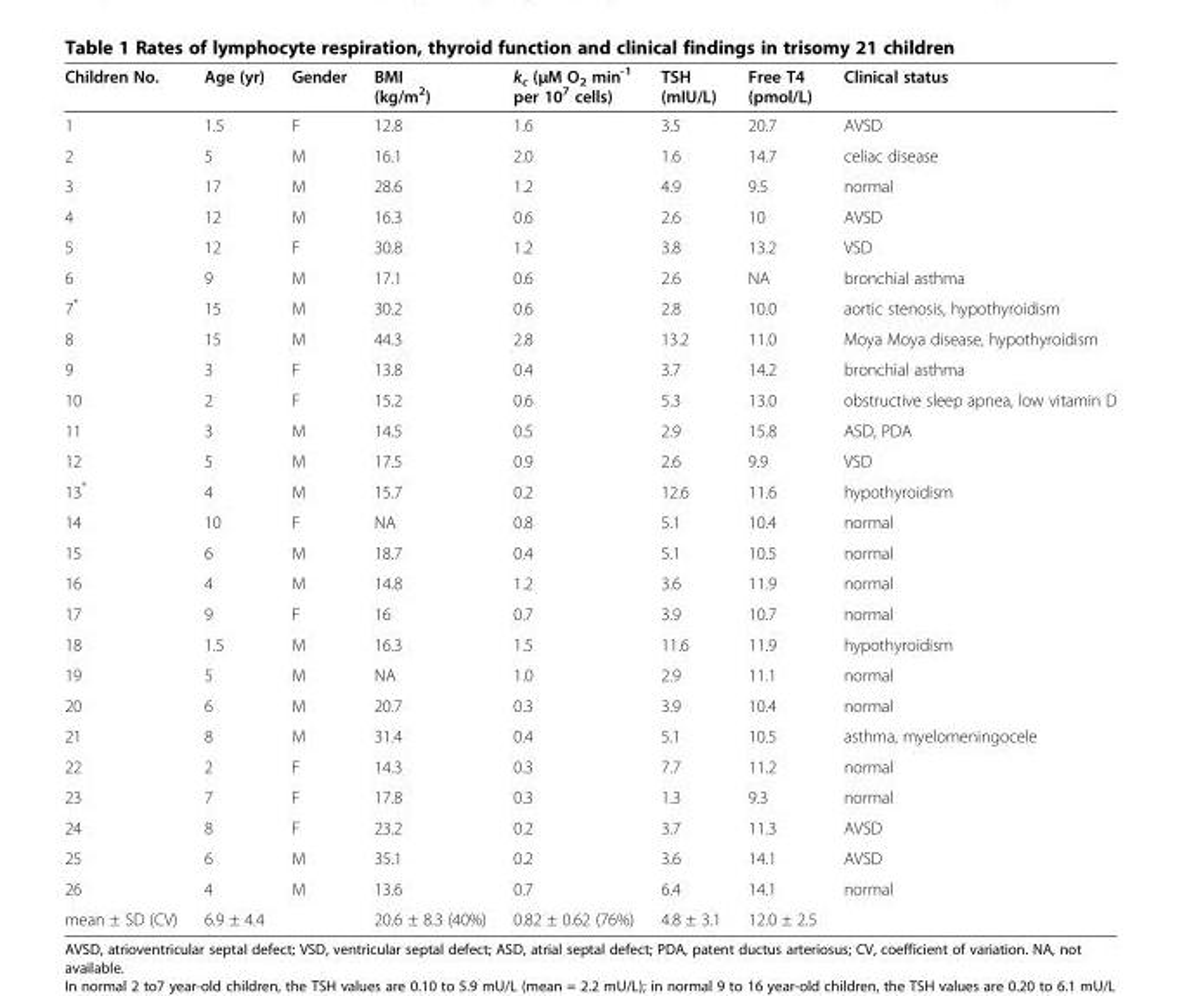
<table><thead><tr><td>Children No.</td><td>Age (yr)</td><td>Gender</td><td>BMI (kg/m<sup>2</sup>)</td><td>k<sub>c</sub> (μM O<sub>2</sub> min<sup>-1</sup> per 10<sup>7</sup> cells)</td><td>TSH (mIU/L)</td><td>Free T4 (pmol/L)</td><td>Clinical status</td></tr></thead><tbody><tr><td>1</td><td>1.5</td><td>F</td><td>12.8</td><td>1.6</td><td>3.5</td><td>20.7</td><td>AVSD</td></tr><tr><td>2</td><td>5</td><td>M</td><td>16.1</td><td>2.0</td><td>1.6</td><td>14.7</td><td>celiac disease</td></tr><tr><td>3</td><td>17</td><td>M</td><td>28.6</td><td>1.2</td><td>4.9</td><td>9.5</td><td>normal</td></tr><tr><td>4</td><td>12</td><td>M</td><td>16.3</td><td>0.6</td><td>2.6</td><td>10</td><td>AVSD</td></tr><tr><td>5</td><td>12</td><td>F</td><td>30.8</td><td>1.2</td><td>3.8</td><td>13.2</td><td>VSD</td></tr><tr><td>6</td><td>9</td><td>M</td><td>17.1</td><td>0.6</td><td>2.6</td><td>NA</td><td>bronchial asthma</td></tr><tr><td>7*</td><td>15</td><td>M</td><td>30.2</td><td>0.6</td><td>2.8</td><td>10.0</td><td>aortic stenosis, hypothyroidism</td></tr><tr><td>8</td><td>15</td><td>M</td><td>44.3</td><td>2.8</td><td>13.2</td><td>11.0</td><td>Moya Moya disease, hypothyroidism</td></tr><tr><td>9</td><td>3</td><td>F</td><td>13.8</td><td>0.4</td><td>3.7</td><td>14.2</td><td>bronchial asthma</td></tr><tr><td>10</td><td>2</td><td>F</td><td>15.2</td><td>0.6</td><td>5.3</td><td>13.0</td><td>obstructive sleep apnea, low vitamin D</td></tr><tr><td>11</td><td>3</td><td>M</td><td>14.5</td><td>0.5</td><td>2.9</td><td>15.8</td><td>ASD, PDA</td></tr><tr><td>12</td><td>5</td><td>M</td><td>17.5</td><td>0.9</td><td>2.6</td><td>9.9</td><td>VSD</td></tr><tr><td>13*</td><td>4</td><td>M</td><td>15.7</td><td>0.2</td><td>12.6</td><td>11.6</td><td>hypothyroidism</td></tr><tr><td>14</td><td>10</td><td>F</td><td>NA</td><td>0.8</td><td>5.1</td><td>10.4</td><td>normal</td></tr><tr><td>15</td><td>6</td><td>M</td><td>18.7</td><td>0.4</td><td>5.1</td><td>10.5</td><td>normal</td></tr><tr><td>16</td><td>4</td><td>M</td><td>14.8</td><td>1.2</td><td>3.6</td><td>11.9</td><td>normal</td></tr><tr><td>17</td><td>9</td><td>F</td><td>16</td><td>0.7</td><td>3.9</td><td>10.7</td><td>normal</td></tr><tr><td>18</td><td>1.5</td><td>M</td><td>16.3</td><td>1.5</td><td>11.6</td><td>11.9</td><td>hypothyroidism</td></tr><tr><td>19</td><td>5</td><td>M</td><td>NA</td><td>1.0</td><td>2.9</td><td>11.1</td><td>normal</td></tr><tr><td>20</td><td>6</td><td>M</td><td>20.7</td><td>0.3</td><td>3.9</td><td>10.4</td><td>normal</td></tr><tr><td>21</td><td>8</td><td>M</td><td>31.4</td><td>0.4</td><td>5.1</td><td>10.5</td><td>asthma, myelomeningocele</td></tr><tr><td>22</td><td>2</td><td>F</td><td>14.3</td><td>0.3</td><td>7.7</td><td>11.2</td><td>normal</td></tr><tr><td>23</td><td>7</td><td>F</td><td>17.8</td><td>0.3</td><td>1.3</td><td>9.3</td><td>normal</td></tr><tr><td>24</td><td>8</td><td>F</td><td>23.2</td><td>0.2</td><td>3.7</td><td>11.3</td><td>AVSD</td></tr><tr><td>25</td><td>6</td><td>M</td><td>35.1</td><td>0.2</td><td>3.6</td><td>14.1</td><td>AVSD</td></tr><tr><td>26</td><td>4</td><td>M</td><td>13.6</td><td>0.7</td><td>6.4</td><td>14.1</td><td>normal</td></tr><tr><td>mean ± SD (CV)</td><td>6.9 ± 4.4</td><td></td><td>20.6 ± 8.3 (40%)</td><td>0.82 ± 0.62 (76%)</td><td>4.8 ± 3.1</td><td>12.0 ± 2.5</td><td></td></tr></tbody></table>